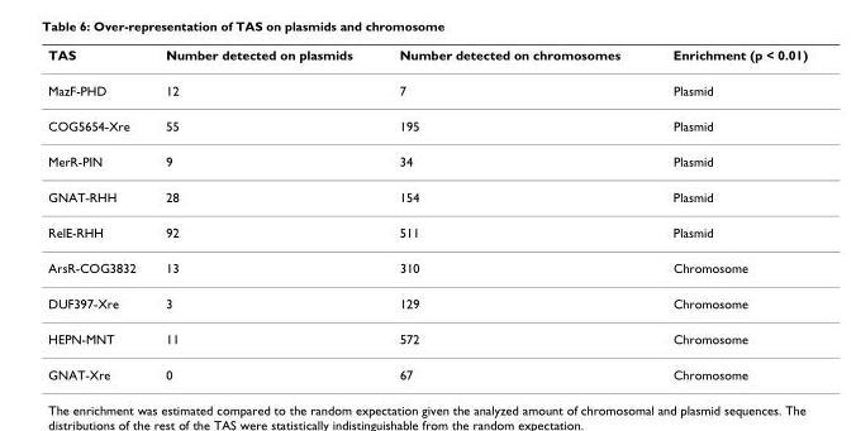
<table><thead><tr><td>TAS</td><td>Number detected on plasmids</td><td>Number detected on chromosomes</td><td>Enrichment (p &lt; 0.01)</td></tr></thead><tbody><tr><td>MazF-PHD</td><td>12</td><td>7</td><td>Plasmid</td></tr><tr><td>COG5654-Xre</td><td>55</td><td>195</td><td>Plasmid</td></tr><tr><td>MerR-PIN</td><td>9</td><td>34</td><td>Plasmid</td></tr><tr><td>GNAT-RHH</td><td>28</td><td>154</td><td>Plasmid</td></tr><tr><td>RelE-RHH</td><td>92</td><td>511</td><td>Plasmid</td></tr><tr><td>ArsR-COG3832</td><td>13</td><td>310</td><td>Chromosome</td></tr><tr><td>DUF397-Xre</td><td>3</td><td>129</td><td>Chromosome</td></tr><tr><td>HEPN-MNT</td><td>11</td><td>572</td><td>Chromosome</td></tr><tr><td>GNAT-Xre</td><td>0</td><td>67</td><td>Chromosome</td></tr></tbody></table>